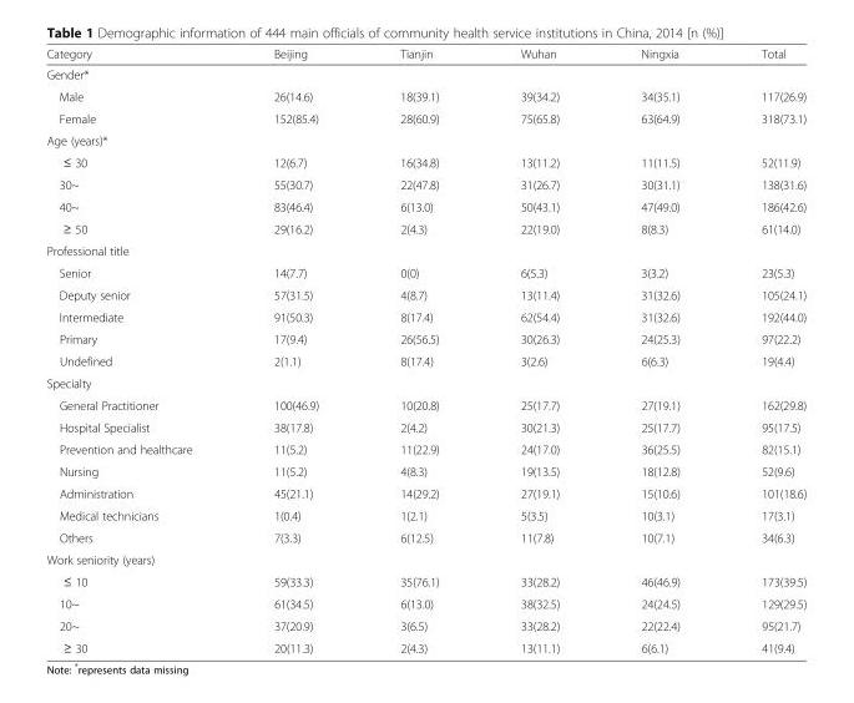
<table><thead><tr><td>Category</td><td>Beijing</td><td>Tianjin</td><td>Wuhan</td><td>Ningxia</td><td>Total</td></tr></thead><tbody><tr><td colspan="6">Gender*</td></tr><tr><td>Male</td><td>26(14.6)</td><td>18(39.1)</td><td>39(34.2)</td><td>34(35.1)</td><td>117(26.9)</td></tr><tr><td>Female</td><td>152(85.4)</td><td>28(60.9)</td><td>75(65.8)</td><td>63(64.9)</td><td>318(73.1)</td></tr><tr><td colspan="6">Age (years)*</td></tr><tr><td>≤ 30</td><td>12(6.7)</td><td>16(34.8)</td><td>13(11.2)</td><td>11(11.5)</td><td>52(11.9)</td></tr><tr><td>30~</td><td>55(30.7)</td><td>22(47.8)</td><td>31(26.7)</td><td>30(31.1)</td><td>138(31.6)</td></tr><tr><td>40~</td><td>83(46.4)</td><td>6(13.0)</td><td>50(43.1)</td><td>47(49.0)</td><td>186(42.6)</td></tr><tr><td>≥ 50</td><td>29(16.2)</td><td>2(4.3)</td><td>22(19.0)</td><td>8(8.3)</td><td>61(14.0)</td></tr><tr><td colspan="6">Professional title</td></tr><tr><td>Senior</td><td>14(7.7)</td><td>0(0)</td><td>6(5.3)</td><td>3(3.2)</td><td>23(5.3)</td></tr><tr><td>Deputy senior</td><td>57(31.5)</td><td>4(8.7)</td><td>13(11.4)</td><td>31(32.6)</td><td>105(24.1)</td></tr><tr><td>Intermediate</td><td>91(50.3)</td><td>8(17.4)</td><td>62(54.4)</td><td>31(32.6)</td><td>192(44.0)</td></tr><tr><td>Primary</td><td>17(9.4)</td><td>26(56.5)</td><td>30(26.3)</td><td>24(25.3)</td><td>97(22.2)</td></tr><tr><td>Undefined</td><td>2(1.1)</td><td>8(17.4)</td><td>3(2.6)</td><td>6(6.3)</td><td>19(4.4)</td></tr><tr><td colspan="6">Specialty</td></tr><tr><td>General Practitioner</td><td>100(46.9)</td><td>10(20.8)</td><td>25(17.7)</td><td>27(19.1)</td><td>162(29.8)</td></tr><tr><td>Hospital Specialist</td><td>38(17.8)</td><td>2(4.2)</td><td>30(21.3)</td><td>25(17.7)</td><td>95(17.5)</td></tr><tr><td>Prevention and healthcare</td><td>11(5.2)</td><td>11(22.9)</td><td>24(17.0)</td><td>36(25.5)</td><td>82(15.1)</td></tr><tr><td>Nursing</td><td>11(5.2)</td><td>4(8.3)</td><td>19(13.5)</td><td>18(12.8)</td><td>52(9.6)</td></tr><tr><td>Administration</td><td>45(21.1)</td><td>14(29.2)</td><td>27(19.1)</td><td>15(10.6)</td><td>101(18.6)</td></tr><tr><td>Medical technicians</td><td>1(0.4)</td><td>1(2.1)</td><td>5(3.5)</td><td>10(3.1)</td><td>17(3.1)</td></tr><tr><td>Others</td><td>7(3.3)</td><td>6(12.5)</td><td>11(7.8)</td><td>10(7.1)</td><td>34(6.3)</td></tr><tr><td colspan="6">Work seniority (years)</td></tr><tr><td>≤ 10</td><td>59(33.3)</td><td>35(76.1)</td><td>33(28.2)</td><td>46(46.9)</td><td>173(39.5)</td></tr><tr><td>10~</td><td>61(34.5)</td><td>6(13.0)</td><td>38(32.5)</td><td>24(24.5)</td><td>129(29.5)</td></tr><tr><td>20~</td><td>37(20.9)</td><td>3(6.5)</td><td>33(28.2)</td><td>22(22.4)</td><td>95(21.7)</td></tr><tr><td>≥ 30</td><td>20(11.3)</td><td>2(4.3)</td><td>13(11.1)</td><td>6(6.1)</td><td>41(9.4)</td></tr></tbody></table>